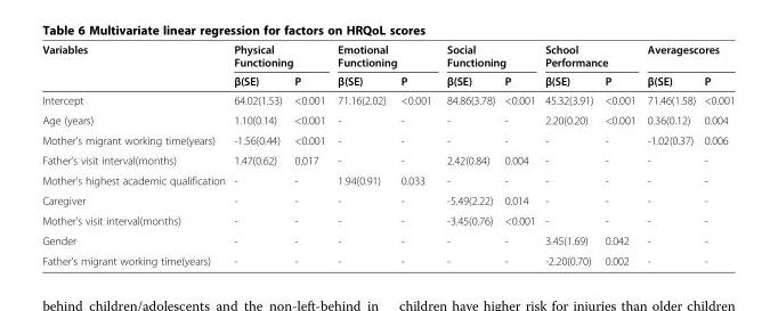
<table><thead><tr><td rowspan="2">Variables</td><td colspan="2">Physical Functioning</td><td colspan="2">Emotional Functioning</td><td colspan="2">Social Functioning</td><td colspan="2">School Performance</td><td colspan="2">Averagescores</td></tr><tr><td>β(SE)</td><td>P</td><td>β(SE)</td><td>P</td><td>β(SE)</td><td>P</td><td>β(SE)</td><td>P</td><td>β(SE)</td><td>P</td></tr></thead><tbody><tr><td>Intercept</td><td>64.02(1.53)</td><td>&lt;0.001</td><td>71.16(2.02)</td><td>&lt;0.001</td><td>84.86(3.78)</td><td>&lt;0.001</td><td>45.32(3.91)</td><td>&lt;0.001</td><td>71.46(1.58)</td><td>&lt;0.001</td></tr><tr><td>Age (years)</td><td>1.10(0.14)</td><td>&lt;0.001</td><td>-</td><td>-</td><td>-</td><td>-</td><td>2.20(0.20)</td><td>&lt;0.001</td><td>0.36(0.12)</td><td>0.004</td></tr><tr><td>Mother’s migrant working time(years)</td><td>-1.56(0.44)</td><td>&lt;0.001</td><td>-</td><td>-</td><td>-</td><td>-</td><td>-</td><td>-</td><td>-1.02(0.37)</td><td>0.006</td></tr><tr><td>Father’s visit interval(months)</td><td>1.47(0.62)</td><td>0.017</td><td>-</td><td>-</td><td>2.42(0.84)</td><td>0.004</td><td>-</td><td>-</td><td>-</td><td>-</td></tr><tr><td>Mother’s highest academic qualification</td><td>-</td><td>-</td><td>1.94(0.91)</td><td>0.033</td><td>-</td><td>-</td><td>-</td><td>-</td><td>-</td><td>-</td></tr><tr><td>Caregiver</td><td>-</td><td>-</td><td>-</td><td>-</td><td>-5.49(2.22)</td><td>0.014</td><td>-</td><td>-</td><td>-</td><td>-</td></tr><tr><td>Mother’s visit interval(months)</td><td>-</td><td>-</td><td>-</td><td>-</td><td>-3.45(0.76)</td><td>&lt;0.001</td><td>-</td><td>-</td><td>-</td><td>-</td></tr><tr><td>Gender</td><td>-</td><td>-</td><td>-</td><td>-</td><td>-</td><td>-</td><td>3.45(1.69)</td><td>0.042</td><td>-</td><td>-</td></tr><tr><td>Father’s migrant working time(years)</td><td>-</td><td>-</td><td>-</td><td>-</td><td>-</td><td>-</td><td>-2.20(0.70)</td><td>0.002</td><td>-</td><td>-</td></tr></tbody></table>